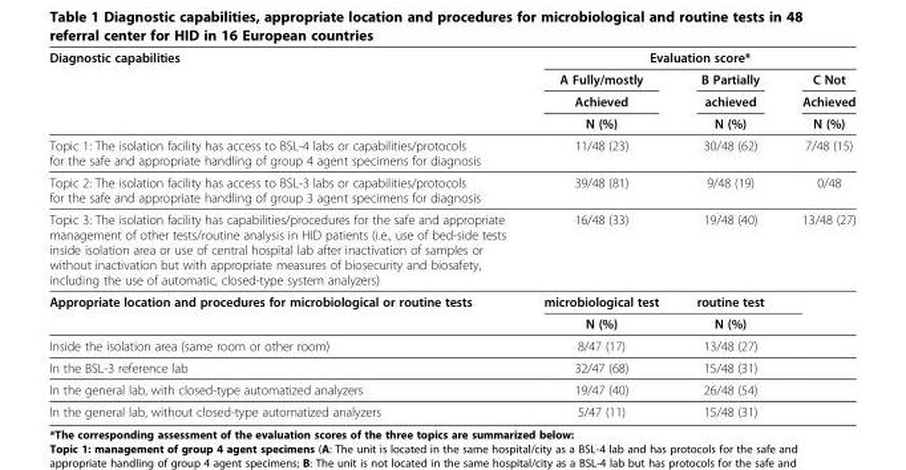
<table><thead><tr><td rowspan="4">Diagnostic capabilities</td><td colspan="3">Evaluation score*</td></tr><tr><td rowspan="3">A Fully/mostly Achieved N (%)</td><td rowspan="3">B Partially achieved N (%)</td><td rowspan="3">C Not Achieved N (%)</td></tr><tr></tr><tr></tr></thead><tbody><tr><td>Topic 1: The isolation facility has access to BSL-4 labs or capabilities/protocols for the safe and appropriate handling of group 4 agent specimens for diagnosis</td><td>11/48 (23)</td><td>30/48 (62)</td><td>7/48 (15)</td></tr><tr><td>Topic 2: The isolation facility has access to BSL-3 labs or capabilities/protocols for the safe and appropriate handling of group 3 agent specimens for diagnosis</td><td>39/48 (81)</td><td>9/48 (19)</td><td>0/48</td></tr><tr><td>Topic 3: The isolation facility has capabilities/procedures for the safe and appropriate management of other tests/routine analysis in HID patients (i.e., use of bed-side tests inside isolation area or use of central hospital lab after inactivation of samples or without inactivation but with appropriate measures of biosecurity and biosafety, including the use of automatic, closed-type system analyzers)</td><td>16/48 (33)</td><td>19/48 (40)</td><td>13/48 (27)</td></tr><tr><td rowspan="2">Appropriate location and procedures for microbiological or routine tests</td><td>microbiological test</td><td>routine test</td><td rowspan="2"></td></tr><tr><td>N (%)</td><td>N (%)</td></tr><tr><td>Inside the isolation area (same room or other room)</td><td>8/47 (17)</td><td>13/48 (27)</td><td></td></tr><tr><td>In the BSL-3 reference lab</td><td>32/47 (68)</td><td>15/48 (31)</td><td></td></tr><tr><td>In the general lab, with closed-type automatized analyzers</td><td>19/47 (40)</td><td>26/48 (54)</td><td></td></tr><tr><td>In the general lab, without closed-type automatized analyzers</td><td>5/47 (11)</td><td>15/48 (31)</td><td></td></tr></tbody></table>